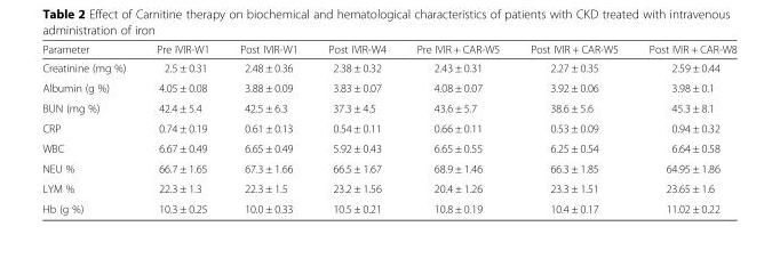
<table><thead><tr><td>Parameter</td><td>Pre IVIR-W1</td><td>Post IVIR-W1</td><td>Post IVIR-W4</td><td>Pre IVIR + CAR-W5</td><td>Post IVIR + CAR-W5</td><td>Post IVIR + CAR-W8</td></tr></thead><tbody><tr><td>Creatinine (mg %)</td><td>2.5 ± 0.31</td><td>2.48 ± 0.36</td><td>2.38 ± 0.32</td><td>2.43 ± 0.31</td><td>2.27 ± 0.35</td><td>2.59 ± 0.44</td></tr><tr><td>Albumin (g %)</td><td>4.05 ± 0.08</td><td>3.88 ± 0.09</td><td>3.83 ± 0.07</td><td>4.08 ± 0.07</td><td>3.92 ± 0.06</td><td>3.98 ± 0.1</td></tr><tr><td>BUN (mg %)</td><td>42.4 ± 5.4</td><td>42.5 ± 6.3</td><td>37.3 ± 4.5</td><td>43.6 ± 5.7</td><td>38.6 ± 5.6</td><td>45.3 ± 8.1</td></tr><tr><td>CRP</td><td>0.74 ± 0.19</td><td>0.61 ± 0.13</td><td>0.54 ± 0.11</td><td>0.66 ± 0.11</td><td>0.53 ± 0.09</td><td>0.94 ± 0.32</td></tr><tr><td>WBC</td><td>6.67 ± 0.49</td><td>6.65 ± 0.49</td><td>5.92 ± 0.43</td><td>6.65 ± 0.55</td><td>6.25 ± 0.54</td><td>6.64 ± 0.58</td></tr><tr><td>NEU %</td><td>66.7 ± 1.65</td><td>67.3 ± 1.66</td><td>66.5 ± 1.67</td><td>68.9 ± 1.46</td><td>66.3 ± 1.85</td><td>64.95 ± 1.86</td></tr><tr><td>LYM %</td><td>22.3 ± 1.3</td><td>22.3 ± 1.5</td><td>23.2 ± 1.56</td><td>20.4 ± 1.26</td><td>23.3 ± 1.51</td><td>23.65 ± 1.6</td></tr><tr><td>Hb (g %)</td><td>10.3 ± 0.25</td><td>10.0 ± 0.33</td><td>10.5 ± 0.21</td><td>10.8 ± 0.19</td><td>10.4 ± 0.17</td><td>11.02 ± 0.22</td></tr></tbody></table>